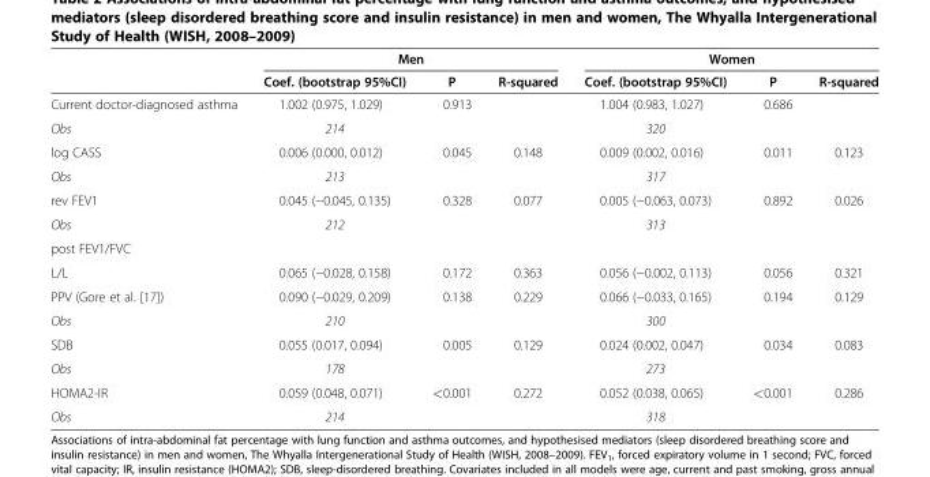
<table><thead><tr><td rowspan="2"></td><td colspan="3">Men</td><td colspan="3">Women</td></tr><tr><td>Coef. (bootstrap 95%CI)</td><td>P</td><td>R-squared</td><td>Coef. (bootstrap 95%CI)</td><td>P</td><td>R-squared</td></tr></thead><tbody><tr><td>Current doctor-diagnosed asthma</td><td>1.002 (0.975, 1.029)</td><td>0.913</td><td></td><td>1.004 (0.983, 1.027)</td><td>0.686</td><td></td></tr><tr><td>Obs</td><td>214</td><td></td><td></td><td>320</td><td></td><td></td></tr><tr><td>log CASS</td><td>0.006 (0.000, 0.012)</td><td>0.045</td><td>0.148</td><td>0.009 (0.002, 0.016)</td><td>0.011</td><td>0.123</td></tr><tr><td>Obs</td><td>213</td><td></td><td></td><td>317</td><td></td><td></td></tr><tr><td>rev FEV1</td><td>0.045 (−0.045, 0.135)</td><td>0.328</td><td>0.077</td><td>0.005 (−0.063, 0.073)</td><td>0.892</td><td>0.026</td></tr><tr><td>Obs</td><td>212</td><td></td><td></td><td>313</td><td></td><td></td></tr><tr><td colspan="7">post FEV1/FVC</td></tr><tr><td>L/L</td><td>0.065 (−0.028, 0.158)</td><td>0.172</td><td>0.363</td><td>0.056 (−0.002, 0.113)</td><td>0.056</td><td>0.321</td></tr><tr><td>PPV (Gore et al. [17])</td><td>0.090 (−0.029, 0.209)</td><td>0.138</td><td>0.229</td><td>0.066 (−0.033, 0.165)</td><td>0.194</td><td>0.129</td></tr><tr><td>Obs</td><td>210</td><td></td><td></td><td>300</td><td></td><td></td></tr><tr><td>SDB</td><td>0.055 (0.017, 0.094)</td><td>0.005</td><td>0.129</td><td>0.024 (0.002, 0.047)</td><td>0.034</td><td>0.083</td></tr><tr><td>Obs</td><td>178</td><td></td><td></td><td>273</td><td></td><td></td></tr><tr><td>HOMA2-IR</td><td>0.059 (0.048, 0.071)</td><td>&lt;0.001</td><td>0.272</td><td>0.052 (0.038, 0.065)</td><td>&lt;0.001</td><td>0.286</td></tr><tr><td>Obs</td><td>214</td><td></td><td></td><td>318</td><td></td><td></td></tr></tbody></table>